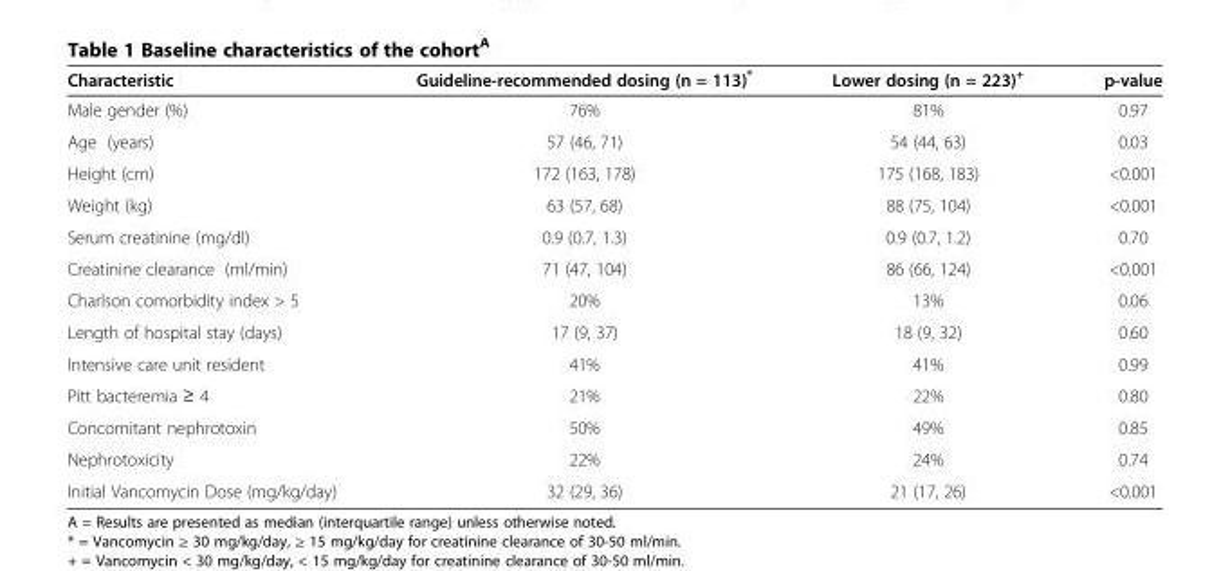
<table><thead><tr><td>Characteristic</td><td>Guideline-recommended dosing (n = 113)*</td><td>Lower dosing (n = 223)<sup>+</sup></td><td>p-value</td></tr></thead><tbody><tr><td>Male gender (%)</td><td>76%</td><td>81%</td><td>0.97</td></tr><tr><td>Age (years)</td><td>57 (46, 71)</td><td>54 (44, 63)</td><td>0.03</td></tr><tr><td>Height (cm)</td><td>172 (163, 178)</td><td>175 (168, 183)</td><td>&lt;0.001</td></tr><tr><td>Weight (kg)</td><td>63 (57, 68)</td><td>88 (75, 104)</td><td>&lt;0.001</td></tr><tr><td>Serum creatinine (mg/dl)</td><td>0.9 (0.7, 1.3)</td><td>0.9 (0.7, 1.2)</td><td>0.70</td></tr><tr><td>Creatinine clearance (ml/min)</td><td>71 (47, 104)</td><td>86 (66, 124)</td><td>&lt;0.001</td></tr><tr><td>Charlson comorbidity index &gt; 5</td><td>20%</td><td>13%</td><td>0.06</td></tr><tr><td>Length of hospital stay (days)</td><td>17 (9, 37)</td><td>18 (9, 32)</td><td>0.60</td></tr><tr><td>Intensive care unit resident</td><td>41%</td><td>41%</td><td>0.99</td></tr><tr><td>Pitt bacteremia ≥ 4</td><td>21%</td><td>22%</td><td>0.80</td></tr><tr><td>Concomitant nephrotoxin</td><td>50%</td><td>49%</td><td>0.85</td></tr><tr><td>Nephrotoxicity</td><td>22%</td><td>24%</td><td>0.74</td></tr><tr><td>Initial Vancomycin Dose (mg/kg/day)</td><td>32 (29, 36)</td><td>21 (17, 26)</td><td>&lt;0.001</td></tr></tbody></table>